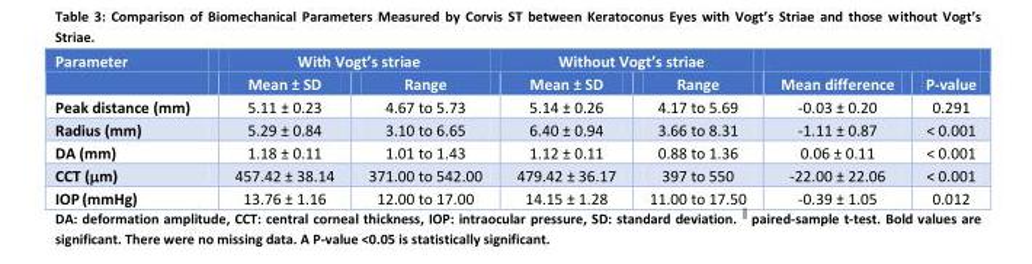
<table><thead><tr><td rowspan="2">Parameter</td><td colspan="2">With Vogt’s striae</td><td colspan="2">Without Vogt’s striae</td><td rowspan="2">Mean difference</td><td rowspan="2">P-value</td></tr><tr><td>Mean ± SD</td><td>Range</td><td>Mean ± SD</td><td>Range</td></tr></thead><tbody><tr><td>Peak distance (mm)</td><td>5.11 ± 0.23</td><td>4.67 to 5.73</td><td>5.14 ± 0.26</td><td>4.17 to 5.69</td><td>-0.03 ± 0.20</td><td>0.291</td></tr><tr><td>Radius (mm)</td><td>5.29 ± 0.84</td><td>3.10 to 6.65</td><td>6.40 ± 0.94</td><td>3.66 to 8.31</td><td>-1.11 ± 0.87</td><td>&lt; 0.001</td></tr><tr><td>DA (mm)</td><td>1.18 ± 0.11</td><td>1.01 to 1.43</td><td>1.12 ± 0.11</td><td>0.88 to 1.36</td><td>0.06 ± 0.11</td><td>&lt; 0.001</td></tr><tr><td>CCT (m)</td><td>457.42 ± 38.14</td><td>371.00 to 542.00</td><td>479.42 ± 36.17</td><td>397 to 550</td><td>-22.00 ± 22.06</td><td>&lt; 0.001</td></tr><tr><td>IOP (mmHg)</td><td>13.76 ± 1.16</td><td>12.00 to 17.00</td><td>14.15 ± 1.28</td><td>11.00 to 17.50</td><td>-0.39 ± 1.05</td><td>0.012</td></tr></tbody></table>